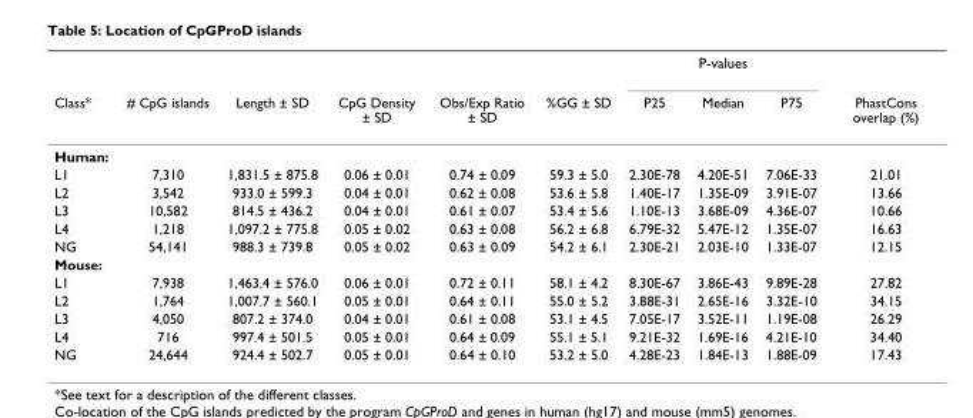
<table><thead><tr><td rowspan="2">Class*</td><td rowspan="2"># CpG islands</td><td rowspan="2">Length ± SD</td><td rowspan="2">CpG Density ± SD</td><td rowspan="2">Obs/Exp Ratio ± SD</td><td rowspan="2">%GG ± SD</td><td colspan="3">P-values</td><td rowspan="2">PhastCons overlap (%)</td></tr><tr><td>P25</td><td>Median</td><td>P75</td></tr></thead><tbody><tr><td colspan="10">Human:</td></tr><tr><td>L1</td><td>7,310</td><td>1,831.5 ± 875.8</td><td>0.06 ± 0.01</td><td>0.74 ± 0.09</td><td>59.3 ± 5.0</td><td>2.30E-78</td><td>4.20E-51</td><td>7.06E-33</td><td>21.01</td></tr><tr><td>L2</td><td>3,542</td><td>933.0 ± 599.3</td><td>0.04 ± 0.01</td><td>0.62 ± 0.08</td><td>53.6 ± 5.8</td><td>1.40E-17</td><td>1.35E-09</td><td>3.91E-07</td><td>13.66</td></tr><tr><td>L3</td><td>10,582</td><td>814.5 ± 436.2</td><td>0.04 ± 0.01</td><td>0.61 ± 0.07</td><td>53.4 ± 5.6</td><td>1.10E-13</td><td>3.68E-09</td><td>4.36E-07</td><td>10.66</td></tr><tr><td>L4</td><td>1,218</td><td>1,097.2 ± 775.8</td><td>0.05 ± 0.02</td><td>0.63 ± 0.08</td><td>56.2 ± 6.8</td><td>6.79E-32</td><td>5.47E-12</td><td>1.35E-07</td><td>16.63</td></tr><tr><td>NG</td><td>54,141</td><td>988.3 ± 739.8</td><td>0.05 ± 0.02</td><td>0.63 ± 0.09</td><td>54.2 ± 6.1</td><td>2.30E-21</td><td>2.03E-10</td><td>1.33E-07</td><td>12.15</td></tr><tr><td colspan="10">Mouse:</td></tr><tr><td>L1</td><td>7,938</td><td>1,463.4 ± 576.0</td><td>0.06 ± 0.01</td><td>0.72 ± 0.11</td><td>58.1 ± 4.2</td><td>8.30E-67</td><td>3.86E-43</td><td>9.89E-28</td><td>27.82</td></tr><tr><td>L2</td><td>1,764</td><td>1,007.7 ± 560.1</td><td>0.05 ± 0.01</td><td>0.64 ± 0.11</td><td>55.0 ± 5.2</td><td>3.88E-31</td><td>2.65E-16</td><td>3.32E-10</td><td>34.15</td></tr><tr><td>L3</td><td>4,050</td><td>807.2 ± 374.0</td><td>0.04 ± 0.01</td><td>0.61 ± 0.08</td><td>53.1 ± 4.5</td><td>7.05E-17</td><td>3.52E-11</td><td>1.19E-08</td><td>26.29</td></tr><tr><td>L4</td><td>716</td><td>997.4 ± 501.5</td><td>0.05 ± 0.01</td><td>0.64 ± 0.09</td><td>55.1 ± 5.1</td><td>9.21E-32</td><td>1.69E-16</td><td>4.21E-10</td><td>34.40</td></tr><tr><td>NG</td><td>24,644</td><td>924.4 ± 502.7</td><td>0.05 ± 0.01</td><td>0.64 ± 0.10</td><td>53.2 ± 5.0</td><td>4.28E-23</td><td>1.84E-13</td><td>1.88E-09</td><td>17.43</td></tr></tbody></table>